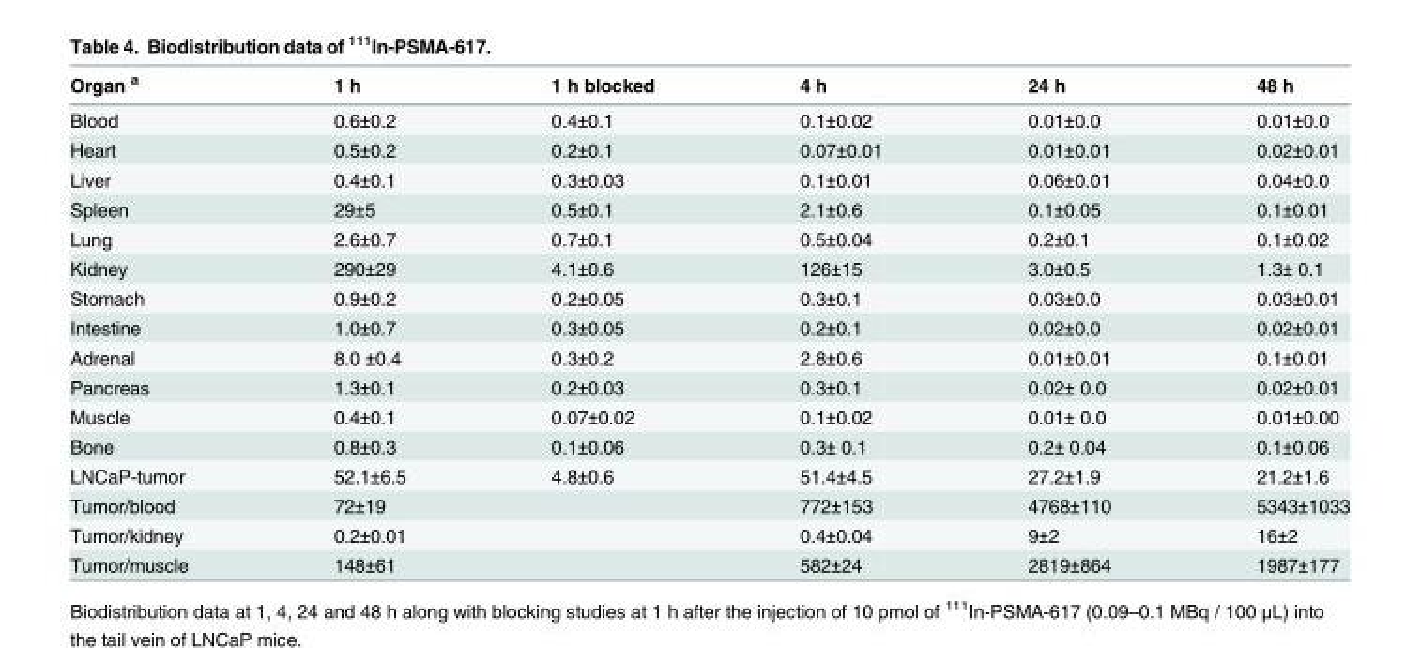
<table><thead><tr><td>Organ <sup>a</sup></td><td>1 h</td><td>1 h blocked</td><td>4 h</td><td>24 h</td><td>48 h</td></tr></thead><tbody><tr><td>Blood</td><td>0.6±0.2</td><td>0.4±0.1</td><td>0.1±0.02</td><td>0.01±0.0</td><td>0.01±0.0</td></tr><tr><td>Heart</td><td>0.5±0.2</td><td>0.2±0.1</td><td>0.07±0.01</td><td>0.01±0.01</td><td>0.02±0.01</td></tr><tr><td>Liver</td><td>0.4±0.1</td><td>0.3±0.03</td><td>0.1±0.01</td><td>0.06±0.01</td><td>0.04±0.0</td></tr><tr><td>Spleen</td><td>29±5</td><td>0.5±0.1</td><td>2.1±0.6</td><td>0.1±0.05</td><td>0.1±0.01</td></tr><tr><td>Lung</td><td>2.6±0.7</td><td>0.7±0.1</td><td>0.5±0.04</td><td>0.2±0.1</td><td>0.1±0.02</td></tr><tr><td>Kidney</td><td>290±29</td><td>4.1±0.6</td><td>126±15</td><td>3.0±0.5</td><td>1.3± 0.1</td></tr><tr><td>Stomach</td><td>0.9±0.2</td><td>0.2±0.05</td><td>0.3±0.1</td><td>0.03±0.0</td><td>0.03±0.01</td></tr><tr><td>Intestine</td><td>1.0±0.7</td><td>0.3±0.05</td><td>0.2±0.1</td><td>0.02±0.0</td><td>0.02±0.01</td></tr><tr><td>Adrenal</td><td>8.0 ±0.4</td><td>0.3±0.2</td><td>2.8±0.6</td><td>0.01±0.01</td><td>0.1±0.01</td></tr><tr><td>Pancreas</td><td>1.3±0.1</td><td>0.2±0.03</td><td>0.3±0.1</td><td>0.02± 0.0</td><td>0.02±0.01</td></tr><tr><td>Muscle</td><td>0.4±0.1</td><td>0.07±0.02</td><td>0.1±0.02</td><td>0.01± 0.0</td><td>0.01±0.00</td></tr><tr><td>Bone</td><td>0.8±0.3</td><td>0.1±0.06</td><td>0.3± 0.1</td><td>0.2± 0.04</td><td>0.1±0.06</td></tr><tr><td>LNCaP-tumor</td><td>52.1±6.5</td><td>4.8±0.6</td><td>51.4±4.5</td><td>27.2±1.9</td><td>21.2±1.6</td></tr><tr><td>Tumor/blood</td><td>72±19</td><td></td><td>772±153</td><td>4768±110</td><td>5343±1033</td></tr><tr><td>Tumor/kidney</td><td>0.2±0.01</td><td></td><td>0.4±0.04</td><td>9±2</td><td>16±2</td></tr><tr><td>Tumor/muscle</td><td>148±61</td><td></td><td>582±24</td><td>2819±864</td><td>1987±177</td></tr></tbody></table>